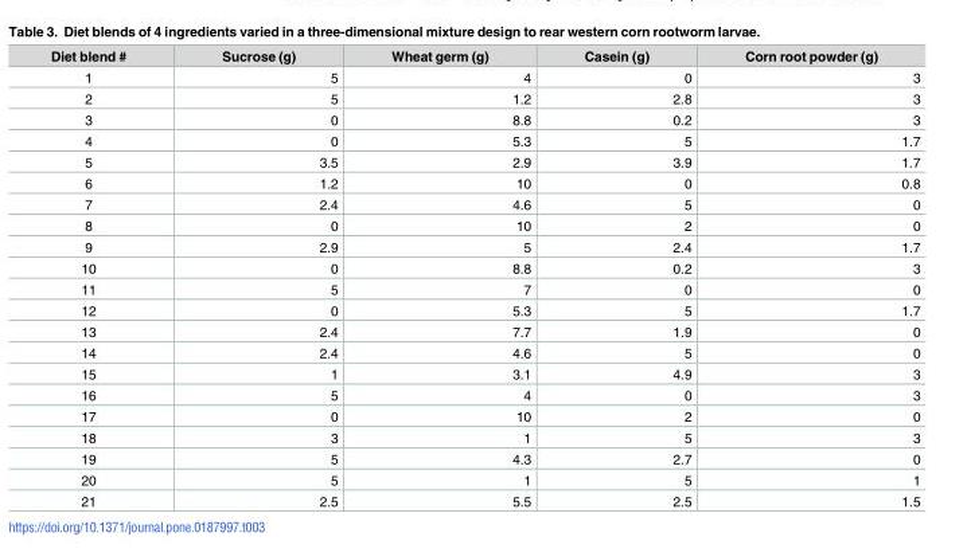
<table><thead><tr><td>Diet blend #</td><td>Sucrose (g)</td><td>Wheat germ (g)</td><td>Casein (g)</td><td>Corn root powder (g)</td></tr></thead><tbody><tr><td>1</td><td>5</td><td>4</td><td>0</td><td>3</td></tr><tr><td>2</td><td>5</td><td>1.2</td><td>2.8</td><td>3</td></tr><tr><td>3</td><td>0</td><td>8.8</td><td>0.2</td><td>3</td></tr><tr><td>4</td><td>0</td><td>5.3</td><td>5</td><td>1.7</td></tr><tr><td>5</td><td>3.5</td><td>2.9</td><td>3.9</td><td>1.7</td></tr><tr><td>6</td><td>1.2</td><td>10</td><td>0</td><td>0.8</td></tr><tr><td>7</td><td>2.4</td><td>4.6</td><td>5</td><td>0</td></tr><tr><td>8</td><td>0</td><td>10</td><td>2</td><td>0</td></tr><tr><td>9</td><td>2.9</td><td>5</td><td>2.4</td><td>1.7</td></tr><tr><td>10</td><td>0</td><td>8.8</td><td>0.2</td><td>3</td></tr><tr><td>11</td><td>5</td><td>7</td><td>0</td><td>0</td></tr><tr><td>12</td><td>0</td><td>5.3</td><td>5</td><td>1.7</td></tr><tr><td>13</td><td>2.4</td><td>7.7</td><td>1.9</td><td>0</td></tr><tr><td>14</td><td>2.4</td><td>4.6</td><td>5</td><td>0</td></tr><tr><td>15</td><td>1</td><td>3.1</td><td>4.9</td><td>3</td></tr><tr><td>16</td><td>5</td><td>4</td><td>0</td><td>3</td></tr><tr><td>17</td><td>0</td><td>10</td><td>2</td><td>0</td></tr><tr><td>18</td><td>3</td><td>1</td><td>5</td><td>3</td></tr><tr><td>19</td><td>5</td><td>4.3</td><td>2.7</td><td>0</td></tr><tr><td>20</td><td>5</td><td>1</td><td>5</td><td>1</td></tr><tr><td>21</td><td>2.5</td><td>5.5</td><td>2.5</td><td>1.5</td></tr></tbody></table>